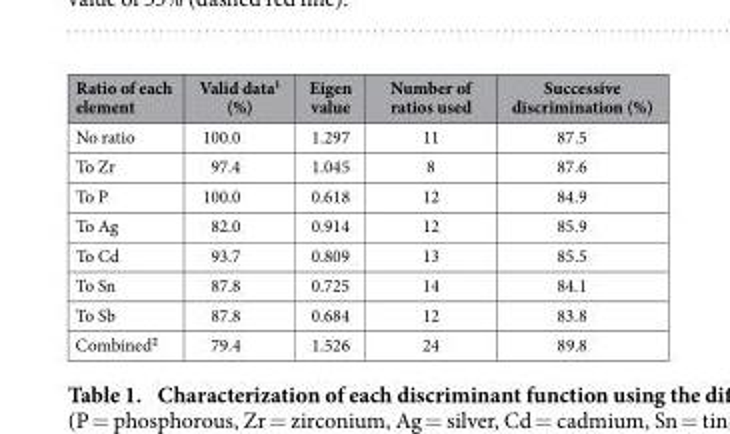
<table><thead><tr><td>Ratio of each element</td><td>Valid data<sup>1</sup> (%)</td><td>Eigen value</td><td>Number of ratios used</td><td>Successive discrimination (%)</td></tr></thead><tbody><tr><td>No ratio</td><td>100.0</td><td>1.297</td><td>11</td><td>87.5</td></tr><tr><td>To Zr</td><td>97.4</td><td>1.045</td><td>8</td><td>87.6</td></tr><tr><td>To P</td><td>100.0</td><td>0.618</td><td>12</td><td>84.9</td></tr><tr><td>To Ag</td><td>82.0</td><td>0.914</td><td>12</td><td>85.9</td></tr><tr><td>To Cd</td><td>93.7</td><td>0.809</td><td>13</td><td>85.5</td></tr><tr><td>To Sn</td><td>87.8</td><td>0.725</td><td>14</td><td>84.1</td></tr><tr><td>To Sb</td><td>87.8</td><td>0.684</td><td>12</td><td>83.8</td></tr><tr><td>Combined<sup>2</sup></td><td>79.4</td><td>1.526</td><td>24</td><td>89.8</td></tr></tbody></table>